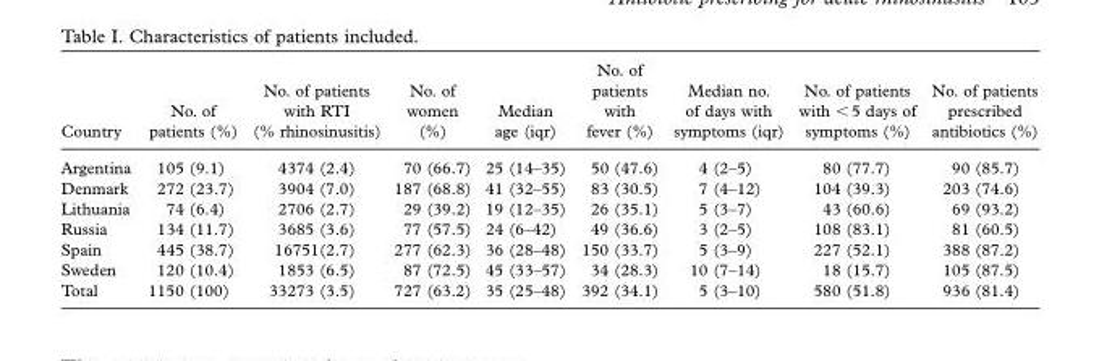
<table><thead><tr><td>Country</td><td>No. of patients (%)</td><td>No. of patients with RTI (% rhinosinusitis)</td><td>No. of women (%)</td><td>Median age (iqr)</td><td>No. of patients with fever (%)</td><td>Median no. of days with symptoms (iqr)</td><td>No. of patients with &lt; 5 days of symptoms (%)</td><td>No. of patients prescribed antibiotics (%)</td></tr></thead><tbody><tr><td>Argentina</td><td>105 (9.1)</td><td>4374 (2.4)</td><td>70 (66.7)</td><td>25 (14 – 35)</td><td>50 (47.6)</td><td>4 (2 – 5)</td><td>80 (77.7)</td><td>90 (85.7)</td></tr><tr><td>Denmark</td><td>272 (23.7)</td><td>3904 (7.0)</td><td>187 (68.8)</td><td>41 (32 – 55)</td><td>83 (30.5)</td><td>7 (4 – 12)</td><td>104 (39.3)</td><td>203 (74.6)</td></tr><tr><td>Lithuania</td><td>74 (6.4)</td><td>2706 (2.7)</td><td>29 (39.2)</td><td>19 (12 – 35)</td><td>26 (35.1)</td><td>5 (3 – 7)</td><td>43 (60.6)</td><td>69 (93.2)</td></tr><tr><td>Russia</td><td>134 (11.7)</td><td>3685 (3.6)</td><td>77 (57.5)</td><td>24 (6 – 42)</td><td>49 (36.6)</td><td>3 (2 – 5)</td><td>108 (83.1)</td><td>81 (60.5)</td></tr><tr><td>Spain</td><td>445 (38.7)</td><td>16751(2.7)</td><td>277 (62.3)</td><td>36 (28 – 48)</td><td>150 (33.7)</td><td>5 (3 – 9)</td><td>227 (52.1)</td><td>388 (87.2)</td></tr><tr><td>Sweden</td><td>120 (10.4)</td><td>1853 (6.5)</td><td>87 (72.5)</td><td>45 (33 – 57)</td><td>34 (28.3)</td><td>10 (7 – 14)</td><td>18 (15.7)</td><td>105 (87.5)</td></tr><tr><td>Total</td><td>1150 (100)</td><td>33273 (3.5)</td><td>727 (63.2)</td><td>35 (25 – 48)</td><td>392 (34.1)</td><td>5 (3 – 10)</td><td>580 (51.8)</td><td>936 (81.4)</td></tr></tbody></table>